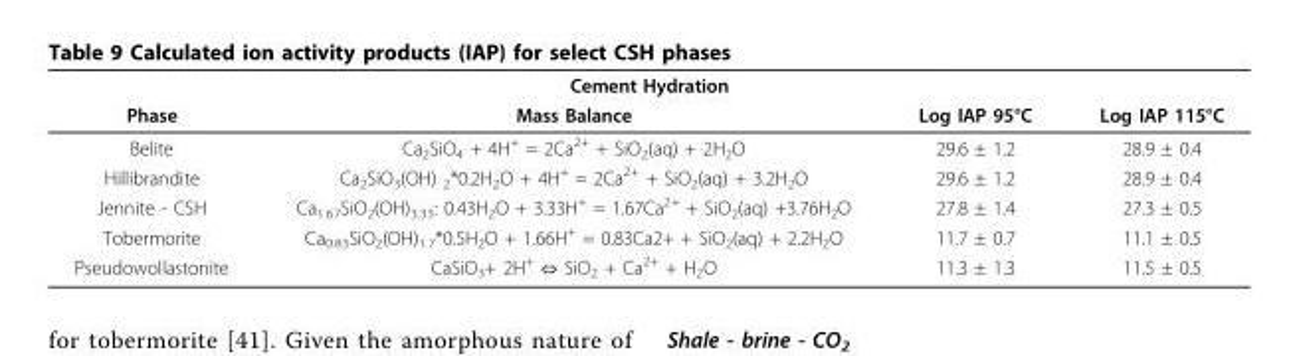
<table><thead><tr><td colspan="4">Cement Hydration</td></tr><tr><td>Phase</td><td>Mass Balance</td><td>Log IAP 95°C</td><td>Log IAP 115°C</td></tr></thead><tbody><tr><td>Belite</td><td>Ca<sub>2</sub>SiO<sub>4</sub> + 4H<sup>+</sup> = 2Ca<sup>2+</sup> + SiO<sub>2</sub>(aq) + 2H<sub>2</sub>O</td><td>29.6 ± 1.2</td><td>28.9 ± 0.4</td></tr><tr><td>Hillibrandite</td><td>Ca<sub>2</sub>SiO<sub>3</sub>(OH) <sub>2</sub>*0.2H<sub>2</sub>O + 4H<sup>+</sup> = 2Ca<sup>2+</sup> + SiO<sub>2</sub>(aq) + 3.2H<sub>2</sub>O</td><td>29.6 ± 1.2</td><td>28.9 ± 0.4</td></tr><tr><td>Jennite - CSH</td><td>Ca<sub>1.67</sub>SiO<sub>2</sub>(OH)<sub>3.33</sub>: 0.43H<sub>2</sub>O + 3.33H<sup>+</sup> = 1.67Ca<sup>2+</sup> + SiO<sub>2</sub>(aq) +3.76H<sub>2</sub>O</td><td>27.8 ± 1.4</td><td>27.3 ± 0.5</td></tr><tr><td>Tobermorite</td><td>Ca<sub>0.83</sub>SiO<sub>2</sub>(OH)<sub>1.7</sub>*0.5H<sub>2</sub>O + 1.66H<sup>+</sup> = 0.83Ca2+ + SiO<sub>2</sub>(aq) + 2.2H<sub>2</sub>O</td><td>11.7 ± 0.7</td><td>11.1 ± 0.5</td></tr><tr><td>Pseudowollastonite</td><td>CaSiO<sub>3</sub>+ 2H<sup>+</sup> ⇔ SiO<sub>2</sub> + Ca<sup>2+</sup> + H<sub>2</sub>O</td><td>11.3 ± 1.3</td><td>11.5 ± 0.5</td></tr></tbody></table>